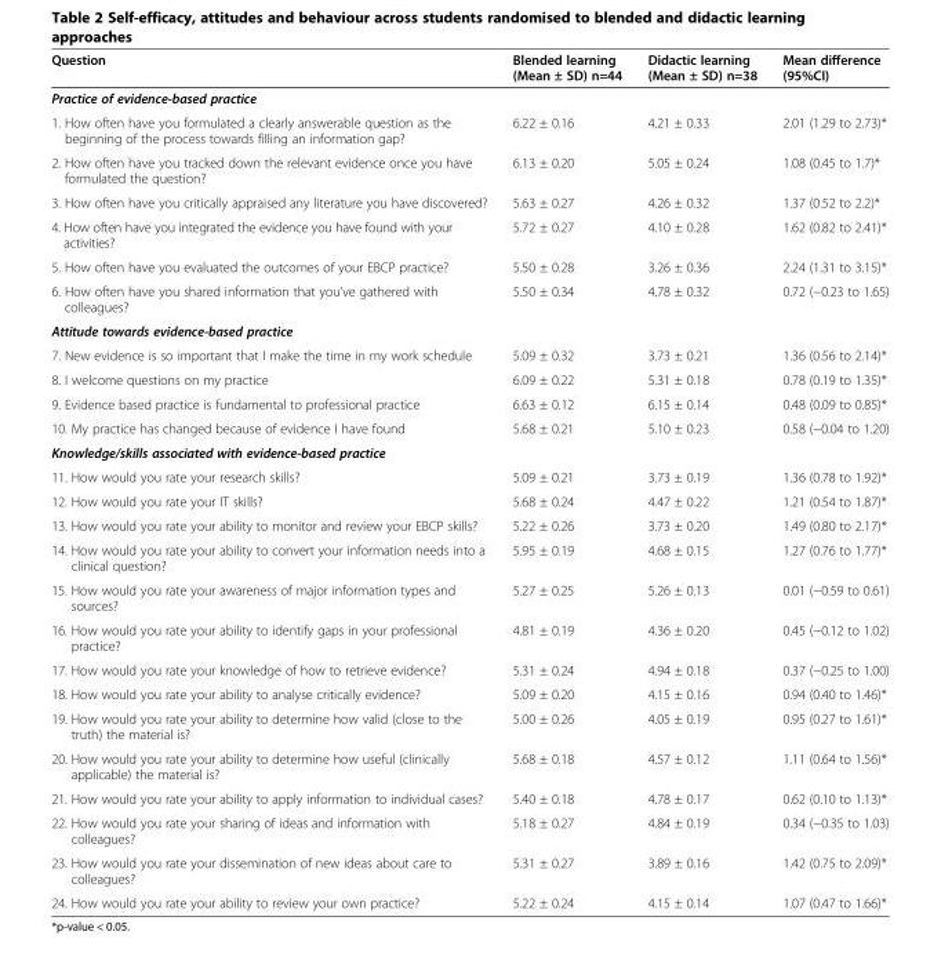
<table><thead><tr><td>Question</td><td>Blended learning (Mean ± SD) n=44</td><td>Didactic learning (Mean ± SD) n=38</td><td>Mean difference (95%CI)</td></tr></thead><tbody><tr><td colspan="4">Practice of evidence-based practice</td></tr><tr><td>1. How often have you formulated a clearly answerable question as the beginning of the process towards filling an information gap?</td><td>6.22 ± 0.16</td><td>4.21 ± 0.33</td><td>2.01 (1.29 to 2.73)*</td></tr><tr><td>2. How often have you tracked down the relevant evidence once you have formulated the question?</td><td>6.13 ± 0.20</td><td>5.05 ± 0.24</td><td>1.08 (0.45 to 1.7)*</td></tr><tr><td>3. How often have you critically appraised any literature you have discovered?</td><td>5.63 ± 0.27</td><td>4.26 ± 0.32</td><td>1.37 (0.52 to 2.2)*</td></tr><tr><td>4. How often have you integrated the evidence you have found with your activities?</td><td>5.72 ± 0.27</td><td>4.10 ± 0.28</td><td>1.62 (0.82 to 2.41)*</td></tr><tr><td>5. How often have you evaluated the outcomes of your EBCP practice?</td><td>5.50 ± 0.28</td><td>3.26 ± 0.36</td><td>2.24 (1.31 to 3.15)*</td></tr><tr><td>6. How often have you shared information that you’ve gathered with colleagues?</td><td>5.50 ± 0.34</td><td>4.78 ± 0.32</td><td>0.72 (−0.23 to 1.65)</td></tr><tr><td colspan="4">Attitude towards evidence-based practice</td></tr><tr><td>7. New evidence is so important that I make the time in my work schedule</td><td>5.09 ± 0.32</td><td>3.73 ± 0.21</td><td>1.36 (0.56 to 2.14)*</td></tr><tr><td>8. I welcome questions on my practice</td><td>6.09 ± 0.22</td><td>5.31 ± 0.18</td><td>0.78 (0.19 to 1.35)*</td></tr><tr><td>9. Evidence based practice is fundamental to professional practice</td><td>6.63 ± 0.12</td><td>6.15 ± 0.14</td><td>0.48 (0.09 to 0.85)*</td></tr><tr><td>10. My practice has changed because of evidence I have found</td><td>5.68 ± 0.21</td><td>5.10 ± 0.23</td><td>0.58 (−0.04 to 1.20)</td></tr><tr><td colspan="4">Knowledge/skills associated with evidence-based practice</td></tr><tr><td>11. How would you rate your research skills?</td><td>5.09 ± 0.21</td><td>3.73 ± 0.19</td><td>1.36 (0.78 to 1.92)*</td></tr><tr><td>12. How would you rate your IT skills?</td><td>5.68 ± 0.24</td><td>4.47 ± 0.22</td><td>1.21 (0.54 to 1.87)*</td></tr><tr><td>13. How would you rate your ability to monitor and review your EBCP skills?</td><td>5.22 ± 0.26</td><td>3.73 ± 0.20</td><td>1.49 (0.80 to 2.17)*</td></tr><tr><td>14. How would you rate your ability to convert your information needs into a clinical question?</td><td>5.95 ± 0.19</td><td>4.68 ± 0.15</td><td>1.27 (0.76 to 1.77)*</td></tr><tr><td>15. How would you rate your awareness of major information types and sources?</td><td>5.27 ± 0.25</td><td>5.26 ± 0.13</td><td>0.01 (−0.59 to 0.61)</td></tr><tr><td>16. How would you rate your ability to identify gaps in your professional practice?</td><td>4.81 ± 0.19</td><td>4.36 ± 0.20</td><td>0.45 (−0.12 to 1.02)</td></tr><tr><td>17. How would you rate your knowledge of how to retrieve evidence?</td><td>5.31 ± 0.24</td><td>4.94 ± 0.18</td><td>0.37 (−0.25 to 1.00)</td></tr><tr><td>18. How would you rate your ability to analyse critically evidence?</td><td>5.09 ± 0.20</td><td>4.15 ± 0.16</td><td>0.94 (0.40 to 1.46)*</td></tr><tr><td>19. How would you rate your ability to determine how valid (close to the truth) the material is?</td><td>5.00 ± 0.26</td><td>4.05 ± 0.19</td><td>0.95 (0.27 to 1.61)*</td></tr><tr><td>20. How would you rate your ability to determine how useful (clinically applicable) the material is?</td><td>5.68 ± 0.18</td><td>4.57 ± 0.12</td><td>1.11 (0.64 to 1.56)*</td></tr><tr><td>21. How would you rate your ability to apply information to individual cases?</td><td>5.40 ± 0.18</td><td>4.78 ± 0.17</td><td>0.62 (0.10 to 1.13)*</td></tr><tr><td>22. How would you rate your sharing of ideas and information with colleagues?</td><td>5.18 ± 0.27</td><td>4.84 ± 0.19</td><td>0.34 (−0.35 to 1.03)</td></tr><tr><td>23. How would you rate your dissemination of new ideas about care to colleagues?</td><td>5.31 ± 0.27</td><td>3.89 ± 0.16</td><td>1.42 (0.75 to 2.09)*</td></tr><tr><td>24. How would you rate your ability to review your own practice?</td><td>5.22 ± 0.24</td><td>4.15 ± 0.14</td><td>1.07 (0.47 to 1.66)*</td></tr></tbody></table>